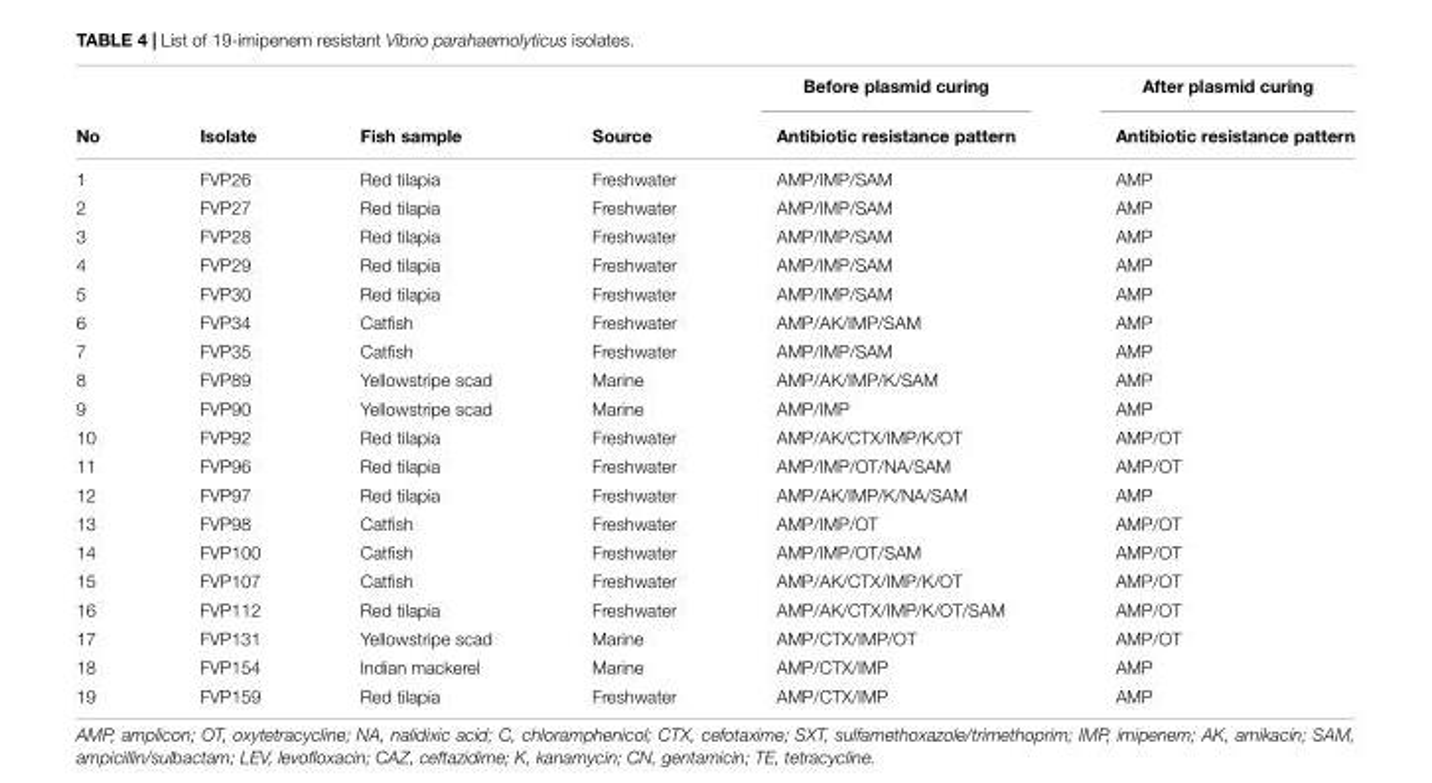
<table><thead><tr><td rowspan="2">No</td><td rowspan="2">Isolate</td><td rowspan="2">Fish sample</td><td rowspan="2">Source</td><td rowspan="2">Before plasmid curing Antibiotic resistance pattern</td><td rowspan="2">After plasmid curing Antibiotic resistance pattern</td></tr><tr></tr></thead><tbody><tr><td>1</td><td>FVP26</td><td>Red tilapia</td><td>Freshwater</td><td>AMP/IMP/SAM</td><td>AMP</td></tr><tr><td>2</td><td>FVP27</td><td>Red tilapia</td><td>Freshwater</td><td>AMP/IMP/SAM</td><td>AMP</td></tr><tr><td>3</td><td>FVP28</td><td>Red tilapia</td><td>Freshwater</td><td>AMP/IMP/SAM</td><td>AMP</td></tr><tr><td>4</td><td>FVP29</td><td>Red tilapia</td><td>Freshwater</td><td>AMP/IMP/SAM</td><td>AMP</td></tr><tr><td>5</td><td>FVP30</td><td>Red tilapia</td><td>Freshwater</td><td>AMP/IMP/SAM</td><td>AMP</td></tr><tr><td>6</td><td>FVP34</td><td>Catfish</td><td>Freshwater</td><td>AMP/AK/IMP/SAM</td><td>AMP</td></tr><tr><td>7</td><td>FVP35</td><td>Catfish</td><td>Freshwater</td><td>AMP/IMP/SAM</td><td>AMP</td></tr><tr><td>8</td><td>FVP89</td><td>Yellowstripe scad</td><td>Marine</td><td>AMP/AK/IMP/K/SAM</td><td>AMP</td></tr><tr><td>9</td><td>FVP90</td><td>Yellowstripe scad</td><td>Marine</td><td>AMP/IMP</td><td>AMP</td></tr><tr><td>10</td><td>FVP92</td><td>Red tilapia</td><td>Freshwater</td><td>AMP/AK/CTX/IMP/K/OT</td><td>AMP/OT</td></tr><tr><td>11</td><td>FVP96</td><td>Red tilapia</td><td>Freshwater</td><td>AMP/IMP/OT/NA/SAM</td><td>AMP/OT</td></tr><tr><td>12</td><td>FVP97</td><td>Red tilapia</td><td>Freshwater</td><td>AMP/AK/IMP/K/NA/SAM</td><td>AMP</td></tr><tr><td>13</td><td>FVP98</td><td>Catfish</td><td>Freshwater</td><td>AMP/IMP/OT</td><td>AMP/OT</td></tr><tr><td>14</td><td>FVP100</td><td>Catfish</td><td>Freshwater</td><td>AMP/IMP/OT/SAM</td><td>AMP/OT</td></tr><tr><td>15</td><td>FVP107</td><td>Catfish</td><td>Freshwater</td><td>AMP/AK/CTX/IMP/K/OT</td><td>AMP/OT</td></tr><tr><td>16</td><td>FVP112</td><td>Red tilapia</td><td>Freshwater</td><td>AMP/AK/CTX/IMP/K/OT/SAM</td><td>AMP/OT</td></tr><tr><td>17</td><td>FVP131</td><td>Yellowstripe scad</td><td>Marine</td><td>AMP/CTX/IMP/OT</td><td>AMP/OT</td></tr><tr><td>18</td><td>FVP154</td><td>Indian mackerel</td><td>Marine</td><td>AMP/CTX/IMP</td><td>AMP</td></tr><tr><td>19</td><td>FVP159</td><td>Red tilapia</td><td>Freshwater</td><td>AMP/CTX/IMP</td><td>AMP</td></tr></tbody></table>